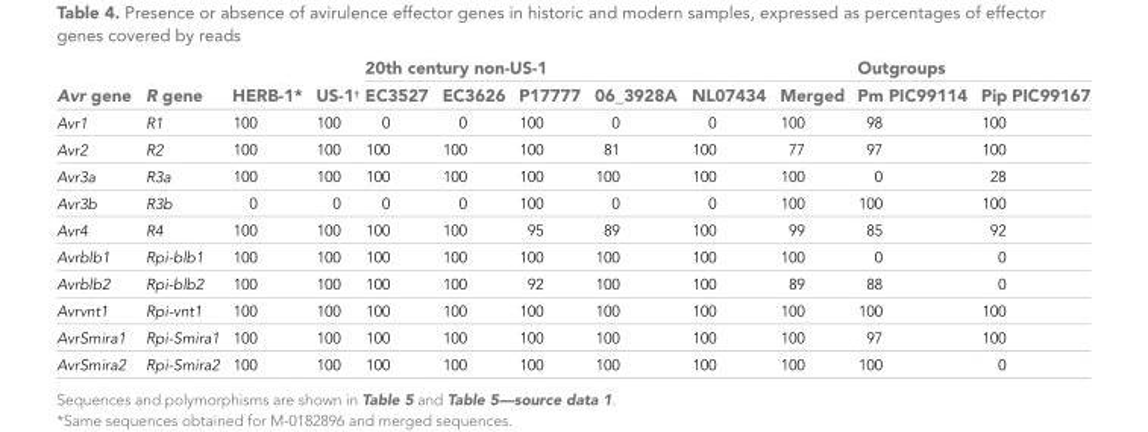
<table><thead><tr><td rowspan="2">Avr gene</td><td rowspan="2">R gene</td><td rowspan="2">HERB-1*</td><td rowspan="2">US-1†</td><td colspan="6">20th century non-US-1</td><td colspan="2">Outgroups</td></tr><tr><td>EC3527</td><td>EC3626</td><td>P17777</td><td>06_3928A</td><td>NL07434</td><td>Merged</td><td>Pm PIC99114</td><td>Pip PIC99167</td></tr></thead><tbody><tr><td>Avr1</td><td>R1</td><td>100</td><td>100</td><td>0</td><td>0</td><td>100</td><td>0</td><td>0</td><td>100</td><td>98</td><td>100</td></tr><tr><td>Avr2</td><td>R2</td><td>100</td><td>100</td><td>100</td><td>100</td><td>100</td><td>81</td><td>100</td><td>77</td><td>97</td><td>100</td></tr><tr><td>Avr3a</td><td>R3a</td><td>100</td><td>100</td><td>100</td><td>100</td><td>100</td><td>100</td><td>100</td><td>100</td><td>0</td><td>28</td></tr><tr><td>Avr3b</td><td>R3b</td><td>0</td><td>0</td><td>0</td><td>0</td><td>100</td><td>0</td><td>0</td><td>100</td><td>100</td><td>100</td></tr><tr><td>Avr4</td><td>R4</td><td>100</td><td>100</td><td>100</td><td>100</td><td>95</td><td>89</td><td>100</td><td>99</td><td>85</td><td>92</td></tr><tr><td>Avrblb1</td><td>Rpi-blb1</td><td>100</td><td>100</td><td>100</td><td>100</td><td>100</td><td>100</td><td>100</td><td>100</td><td>0</td><td>0</td></tr><tr><td>Avrblb2</td><td>Rpi-blb2</td><td>100</td><td>100</td><td>100</td><td>100</td><td>92</td><td>100</td><td>100</td><td>89</td><td>88</td><td>0</td></tr><tr><td>Avrvnt1</td><td>Rpi-vnt1</td><td>100</td><td>100</td><td>100</td><td>100</td><td>100</td><td>100</td><td>100</td><td>100</td><td>100</td><td>100</td></tr><tr><td>AvrSmira1</td><td>Rpi-Smira1</td><td>100</td><td>100</td><td>100</td><td>100</td><td>100</td><td>100</td><td>100</td><td>100</td><td>97</td><td>100</td></tr><tr><td>AvrSmira2</td><td>Rpi-Smira2</td><td>100</td><td>100</td><td>100</td><td>100</td><td>100</td><td>100</td><td>100</td><td>100</td><td>100</td><td>0</td></tr></tbody></table>